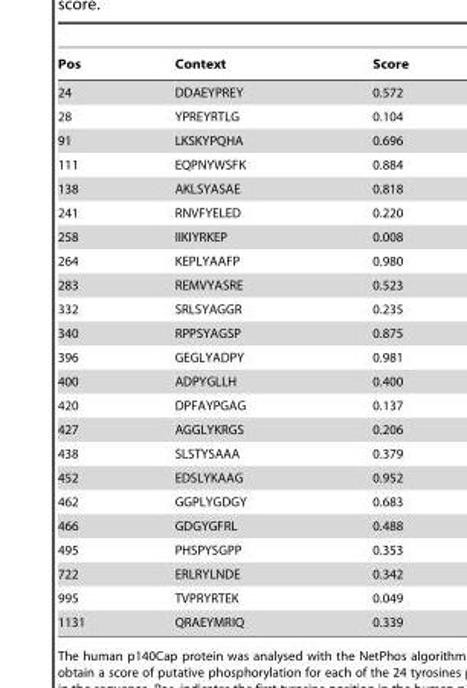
<table><thead><tr><td>Pos</td><td>Context</td><td>Score</td></tr></thead><tbody><tr><td>24</td><td>DDAEYPREY</td><td>0.572</td></tr><tr><td>28</td><td>YPREYRTLG</td><td>0.104</td></tr><tr><td>91</td><td>LKSKYPQHA</td><td>0.696</td></tr><tr><td>111</td><td>EQPNYWSFK</td><td>0.884</td></tr><tr><td>138</td><td>AKLSYASAE</td><td>0.818</td></tr><tr><td>241</td><td>RNVFYELED</td><td>0.220</td></tr><tr><td>258</td><td>IIKIYRKEP</td><td>0.008</td></tr><tr><td>264</td><td>KEPLYAAFP</td><td>0.980</td></tr><tr><td>283</td><td>REMVYASRE</td><td>0.523</td></tr><tr><td>332</td><td>SRLSYAGGR</td><td>0.235</td></tr><tr><td>340</td><td>RPPSYAGSP</td><td>0.875</td></tr><tr><td>396</td><td>GEGLYADPY</td><td>0.981</td></tr><tr><td>400</td><td>ADPYGLLH</td><td>0.400</td></tr><tr><td>420</td><td>DPFAYPGAG</td><td>0.137</td></tr><tr><td>427</td><td>AGGLYKRGS</td><td>0.206</td></tr><tr><td>438</td><td>SLSTYSAAA</td><td>0.379</td></tr><tr><td>452</td><td>EDSLYKAAG</td><td>0.952</td></tr><tr><td>462</td><td>GGPLYGDGY</td><td>0.683</td></tr><tr><td>466</td><td>GDGYGFRL</td><td>0.488</td></tr><tr><td>495</td><td>PHSPYSGPP</td><td>0.353</td></tr><tr><td>722</td><td>ERLRYLNDE</td><td>0.342</td></tr><tr><td>995</td><td>TVPRYRTEK</td><td>0.049</td></tr><tr><td>1131</td><td>QRAEYMRIQ</td><td>0.339</td></tr></tbody></table>